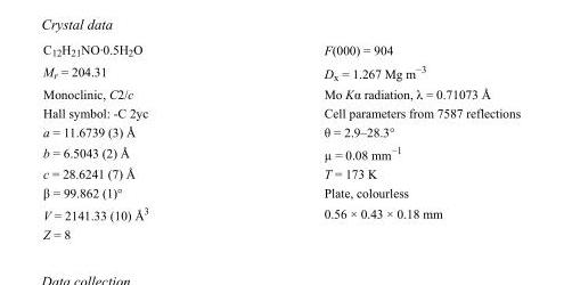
<table><tbody><tr><td>C<sub>12</sub>H<sub>21</sub>NO·0.5H<sub>2</sub>O</td><td>F(000) = 904</td></tr><tr><td>M<sub>r</sub> = 204.31</td><td>D<sub>x</sub> = 1.267 Mg m<sup>−3</sup></td></tr><tr><td>Monoclinic, C2/c</td><td>Mo Kα radiation, λ = 0.71073 Å</td></tr><tr><td>Hall symbol: -C 2yc</td><td>Cell parameters from 7587 reflections</td></tr><tr><td>a = 11.6739 (3) Å</td><td>θ = 2.9–28.3°</td></tr><tr><td>b = 6.5043 (2) Å</td><td>µ = 0.08 mm<sup>−1</sup></td></tr><tr><td>c = 28.6241 (7) Å</td><td>T = 173 K</td></tr><tr><td>β = 99.862 (1)°</td><td>Plate, colourless</td></tr><tr><td>V = 2141.33 (10) Å<sup>3</sup></td><td>0.56 × 0.43 × 0.18 mm</td></tr><tr><td>Z = 8</td><td></td></tr></tbody></table>